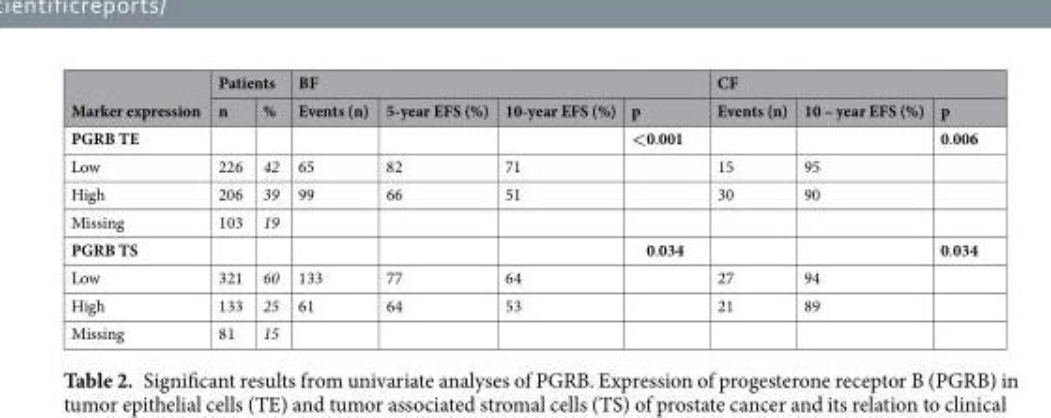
<table><thead><tr><td rowspan="2">Marker expression</td><td colspan="2">Patients</td><td colspan="4">BF</td><td colspan="3">CF</td></tr><tr><td>n</td><td>%</td><td>Events (n)</td><td>5-year EFS (%)</td><td>10-year EFS (%)</td><td>p</td><td>Events (n)</td><td>10 – year EFS (%)</td><td>p</td></tr></thead><tbody><tr><td>PGRB TE</td><td></td><td></td><td></td><td></td><td></td><td>&lt;0.001</td><td></td><td></td><td>0.006</td></tr><tr><td>Low</td><td>226</td><td>42</td><td>65</td><td>82</td><td>71</td><td></td><td>15</td><td>95</td><td></td></tr><tr><td>High</td><td>206</td><td>39</td><td>99</td><td>66</td><td>51</td><td></td><td>30</td><td>90</td><td></td></tr><tr><td>Missing</td><td>103</td><td>19</td><td></td><td></td><td></td><td></td><td></td><td></td><td></td></tr><tr><td>PGRB TS</td><td></td><td></td><td></td><td></td><td></td><td>0.034</td><td></td><td></td><td>0.034</td></tr><tr><td>Low</td><td>321</td><td>60</td><td>133</td><td>77</td><td>64</td><td></td><td>27</td><td>94</td><td></td></tr><tr><td>High</td><td>133</td><td>25</td><td>61</td><td>64</td><td>53</td><td></td><td>21</td><td>89</td><td></td></tr><tr><td>Missing</td><td>81</td><td>15</td><td></td><td></td><td></td><td></td><td></td><td></td><td></td></tr></tbody></table>